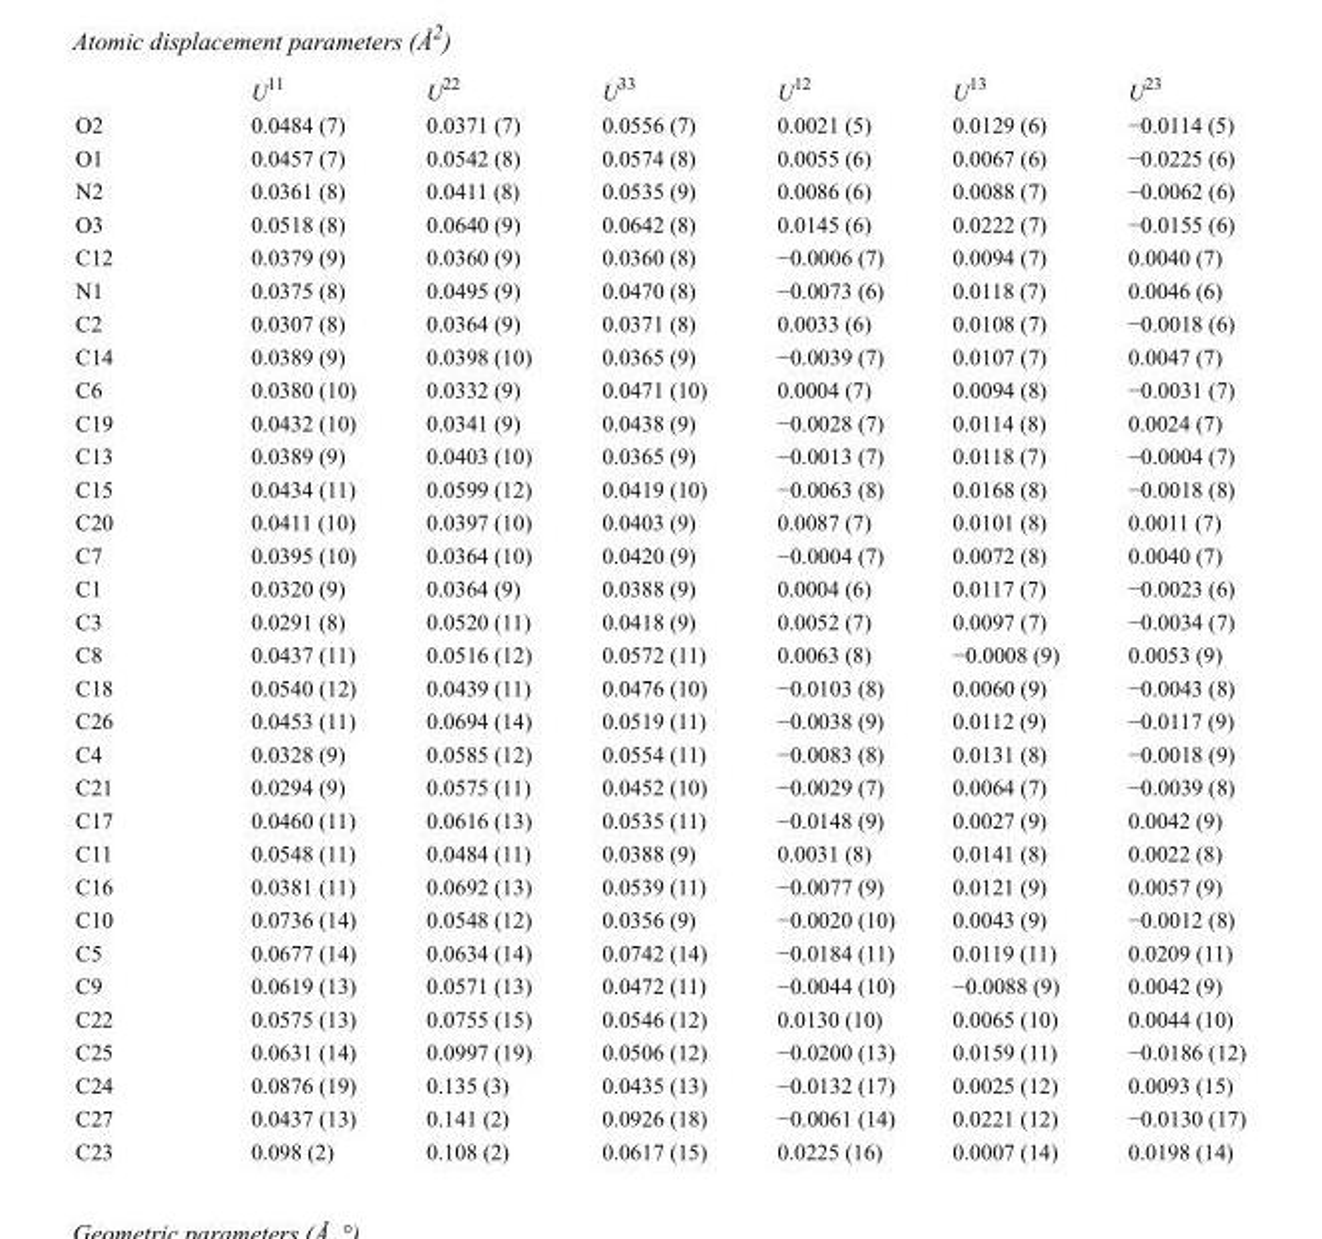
<table><thead><tr><td></td><td>U<sup>11</sup></td><td>U<sup>22</sup></td><td>U<sup>33</sup></td><td>U<sup>12</sup></td><td>U<sup>13</sup></td><td>U<sup>23</sup></td></tr></thead><tbody><tr><td>O2</td><td>0.0484 (7)</td><td>0.0371 (7)</td><td>0.0556 (7)</td><td>0.0021 (5)</td><td>0.0129 (6)</td><td>−0.0114 (5)</td></tr><tr><td>O1</td><td>0.0457 (7)</td><td>0.0542 (8)</td><td>0.0574 (8)</td><td>0.0055 (6)</td><td>0.0067 (6)</td><td>−0.0225 (6)</td></tr><tr><td>N2</td><td>0.0361 (8)</td><td>0.0411 (8)</td><td>0.0535 (9)</td><td>0.0086 (6)</td><td>0.0088 (7)</td><td>−0.0062 (6)</td></tr><tr><td>O3</td><td>0.0518 (8)</td><td>0.0640 (9)</td><td>0.0642 (8)</td><td>0.0145 (6)</td><td>0.0222 (7)</td><td>−0.0155 (6)</td></tr><tr><td>C12</td><td>0.0379 (9)</td><td>0.0360 (9)</td><td>0.0360 (8)</td><td>−0.0006 (7)</td><td>0.0094 (7)</td><td>0.0040 (7)</td></tr><tr><td>N1</td><td>0.0375 (8)</td><td>0.0495 (9)</td><td>0.0470 (8)</td><td>−0.0073 (6)</td><td>0.0118 (7)</td><td>0.0046 (6)</td></tr><tr><td>C2</td><td>0.0307 (8)</td><td>0.0364 (9)</td><td>0.0371 (8)</td><td>0.0033 (6)</td><td>0.0108 (7)</td><td>−0.0018 (6)</td></tr><tr><td>C14</td><td>0.0389 (9)</td><td>0.0398 (10)</td><td>0.0365 (9)</td><td>−0.0039 (7)</td><td>0.0107 (7)</td><td>0.0047 (7)</td></tr><tr><td>C6</td><td>0.0380 (10)</td><td>0.0332 (9)</td><td>0.0471 (10)</td><td>0.0004 (7)</td><td>0.0094 (8)</td><td>−0.0031 (7)</td></tr><tr><td>C19</td><td>0.0432 (10)</td><td>0.0341 (9)</td><td>0.0438 (9)</td><td>−0.0028 (7)</td><td>0.0114 (8)</td><td>0.0024 (7)</td></tr><tr><td>C13</td><td>0.0389 (9)</td><td>0.0403 (10)</td><td>0.0365 (9)</td><td>−0.0013 (7)</td><td>0.0118 (7)</td><td>−0.0004 (7)</td></tr><tr><td>C15</td><td>0.0434 (11)</td><td>0.0599 (12)</td><td>0.0419 (10)</td><td>−0.0063 (8)</td><td>0.0168 (8)</td><td>−0.0018 (8)</td></tr><tr><td>C20</td><td>0.0411 (10)</td><td>0.0397 (10)</td><td>0.0403 (9)</td><td>0.0087 (7)</td><td>0.0101 (8)</td><td>0.0011 (7)</td></tr><tr><td>C7</td><td>0.0395 (10)</td><td>0.0364 (10)</td><td>0.0420 (9)</td><td>−0.0004 (7)</td><td>0.0072 (8)</td><td>0.0040 (7)</td></tr><tr><td>C1</td><td>0.0320 (9)</td><td>0.0364 (9)</td><td>0.0388 (9)</td><td>0.0004 (6)</td><td>0.0117 (7)</td><td>−0.0023 (6)</td></tr><tr><td>C3</td><td>0.0291 (8)</td><td>0.0520 (11)</td><td>0.0418 (9)</td><td>0.0052 (7)</td><td>0.0097 (7)</td><td>−0.0034 (7)</td></tr><tr><td>C8</td><td>0.0437 (11)</td><td>0.0516 (12)</td><td>0.0572 (11)</td><td>0.0063 (8)</td><td>−0.0008 (9)</td><td>0.0053 (9)</td></tr><tr><td>C18</td><td>0.0540 (12)</td><td>0.0439 (11)</td><td>0.0476 (10)</td><td>−0.0103 (8)</td><td>0.0060 (9)</td><td>−0.0043 (8)</td></tr><tr><td>C26</td><td>0.0453 (11)</td><td>0.0694 (14)</td><td>0.0519 (11)</td><td>−0.0038 (9)</td><td>0.0112 (9)</td><td>−0.0117 (9)</td></tr><tr><td>C4</td><td>0.0328 (9)</td><td>0.0585 (12)</td><td>0.0554 (11)</td><td>−0.0083 (8)</td><td>0.0131 (8)</td><td>−0.0018 (9)</td></tr><tr><td>C21</td><td>0.0294 (9)</td><td>0.0575 (11)</td><td>0.0452 (10)</td><td>−0.0029 (7)</td><td>0.0064 (7)</td><td>−0.0039 (8)</td></tr><tr><td>C17</td><td>0.0460 (11)</td><td>0.0616 (13)</td><td>0.0535 (11)</td><td>−0.0148 (9)</td><td>0.0027 (9)</td><td>0.0042 (9)</td></tr><tr><td>C11</td><td>0.0548 (11)</td><td>0.0484 (11)</td><td>0.0388 (9)</td><td>0.0031 (8)</td><td>0.0141 (8)</td><td>0.0022 (8)</td></tr><tr><td>C16</td><td>0.0381 (11)</td><td>0.0692 (13)</td><td>0.0539 (11)</td><td>−0.0077 (9)</td><td>0.0121 (9)</td><td>0.0057 (9)</td></tr><tr><td>C10</td><td>0.0736 (14)</td><td>0.0548 (12)</td><td>0.0356 (9)</td><td>−0.0020 (10)</td><td>0.0043 (9)</td><td>−0.0012 (8)</td></tr><tr><td>C5</td><td>0.0677 (14)</td><td>0.0634 (14)</td><td>0.0742 (14)</td><td>−0.0184 (11)</td><td>0.0119 (11)</td><td>0.0209 (11)</td></tr><tr><td>C9</td><td>0.0619 (13)</td><td>0.0571 (13)</td><td>0.0472 (11)</td><td>−0.0044 (10)</td><td>−0.0088 (9)</td><td>0.0042 (9)</td></tr><tr><td>C22</td><td>0.0575 (13)</td><td>0.0755 (15)</td><td>0.0546 (12)</td><td>0.0130 (10)</td><td>0.0065 (10)</td><td>0.0044 (10)</td></tr><tr><td>C25</td><td>0.0631 (14)</td><td>0.0997 (19)</td><td>0.0506 (12)</td><td>−0.0200 (13)</td><td>0.0159 (11)</td><td>−0.0186 (12)</td></tr><tr><td>C24</td><td>0.0876 (19)</td><td>0.135 (3)</td><td>0.0435 (13)</td><td>−0.0132 (17)</td><td>0.0025 (12)</td><td>0.0093 (15)</td></tr><tr><td>C27</td><td>0.0437 (13)</td><td>0.141 (2)</td><td>0.0926 (18)</td><td>−0.0061 (14)</td><td>0.0221 (12)</td><td>−0.0130 (17)</td></tr><tr><td>C23</td><td>0.098 (2)</td><td>0.108 (2)</td><td>0.0617 (15)</td><td>0.0225 (16)</td><td>0.0007 (14)</td><td>0.0198 (14)</td></tr></tbody></table>